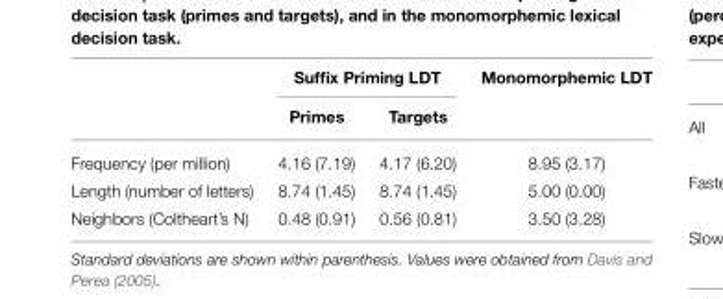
<table><thead><tr><td rowspan="2"></td><td colspan="2">Suffix Priming LDT</td><td rowspan="2">Monomorphemic LDT</td></tr><tr><td>Primes</td><td>Targets</td></tr></thead><tbody><tr><td>Frequency (per million)</td><td>4.16 (7.19)</td><td>4.17 (6.20)</td><td>8.95 (3.17)</td></tr><tr><td>Length (number of letters)</td><td>8.74 (1.45)</td><td>8.74 (1.45)</td><td>5.00 (0.00)</td></tr><tr><td>Neighbors (Coltheart’s N)</td><td>0.48 (0.91)</td><td>0.56 (0.81)</td><td>3.50 (3.28)</td></tr></tbody></table>